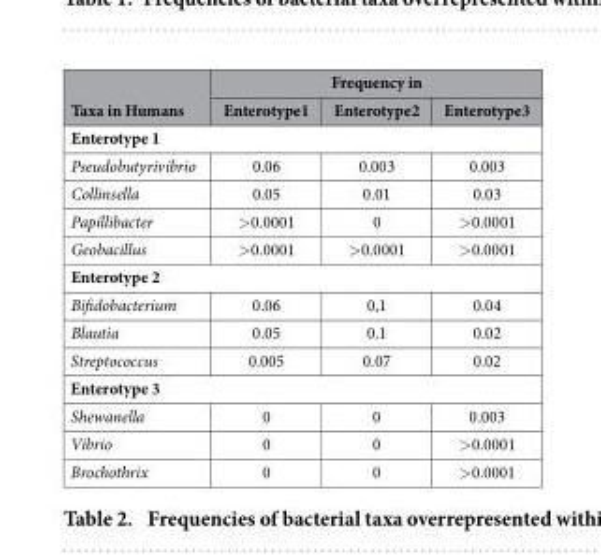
<table><thead><tr><td rowspan="2">Taxa in Humans</td><td colspan="3">Frequency in</td></tr><tr><td>Enterotype1</td><td>Enterotype2</td><td>Enterotype3</td></tr></thead><tbody><tr><td colspan="4">Enterotype 1</td></tr><tr><td>Pseudobutyrivibrio</td><td>0.06</td><td>0.003</td><td>0.003</td></tr><tr><td>Collinsella</td><td>0.05</td><td>0.01</td><td>0.03</td></tr><tr><td>Papillibacter</td><td>&gt; 0.0001</td><td>0</td><td>&gt; 0.0001</td></tr><tr><td>Geobacillus</td><td>&gt; 0.0001</td><td>&gt; 0.0001</td><td>&gt; 0.0001</td></tr><tr><td colspan="4">Enterotype 2</td></tr><tr><td>Bifidobacterium</td><td>0.06</td><td>0,1</td><td>0.04</td></tr><tr><td>Blautia</td><td>0.05</td><td>0.1</td><td>0.02</td></tr><tr><td>Streptococcus</td><td>0.005</td><td>0.07</td><td>0.02</td></tr><tr><td colspan="4">Enterotype 3</td></tr><tr><td>Shewanella</td><td>0</td><td>0</td><td>0.003</td></tr><tr><td>Vibrio</td><td>0</td><td>0</td><td>&gt; 0.0001</td></tr><tr><td>Brochothrix</td><td>0</td><td>0</td><td>&gt; 0.0001</td></tr></tbody></table>